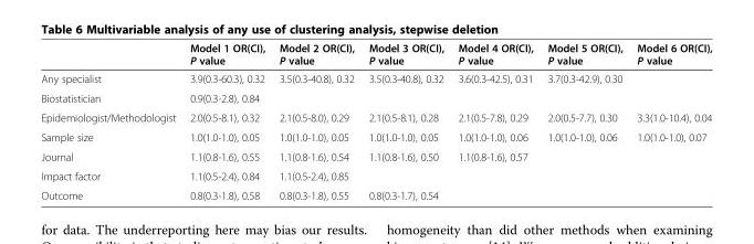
<table><thead><tr><td></td><td>Model 1 OR(CI), P value</td><td>Model 2 OR(CI), P value</td><td>Model 3 OR(CI), P value</td><td>Model 4 OR(CI), P value</td><td>Model 5 OR(CI), P value</td><td>Model 6 OR(CI), P value</td></tr></thead><tbody><tr><td>Any specialist</td><td>3.9(0.3-60.3), 0.32</td><td>3.5(0.3-40.8), 0.32</td><td>3.5(0.3-40.8), 0.32</td><td>3.6(0.3-42.5), 0.31</td><td>3.7(0.3-42.9), 0.30</td><td></td></tr><tr><td>Biostatistician</td><td>0.9(0.3-2.8), 0.84</td><td></td><td></td><td></td><td></td><td></td></tr><tr><td>Epidemiologist/Methodologist</td><td>2.0(0.5-8.1), 0.32</td><td>2.1(0.5-8.0), 0.29</td><td>2.1(0.5-8.1), 0.28</td><td>2.1(0.5-7.8), 0.29</td><td>2.0(0.5-7.7), 0.30</td><td>3.3(1.0-10.4), 0.04</td></tr><tr><td>Sample size</td><td>1.0(1.0-1.0), 0.05</td><td>1.0(1.0-1.0), 0.05</td><td>1.0(1.0-1.0), 0.05</td><td>1.0(1.0-1.0), 0.06</td><td>1.0(1.0-1.0), 0.06</td><td>1.0(1.0-1.0), 0.07</td></tr><tr><td>Journal</td><td>1.1(0.8-1.6), 0.55</td><td>1.1(0.8-1.6), 0.54</td><td>1.1(0.8-1.6), 0.50</td><td>1.1(0.8-1.6), 0.57</td><td></td><td></td></tr><tr><td>Impact factor</td><td>1.1(0.5-2.4), 0.84</td><td>1.1(0.5-2.4), 0.85</td><td></td><td></td><td></td><td></td></tr><tr><td>Outcome</td><td>0.8(0.3-1.8), 0.58</td><td>0.8(0.3-1.8), 0.55</td><td>0.8(0.3-1.7), 0.54</td><td></td><td></td><td></td></tr></tbody></table>